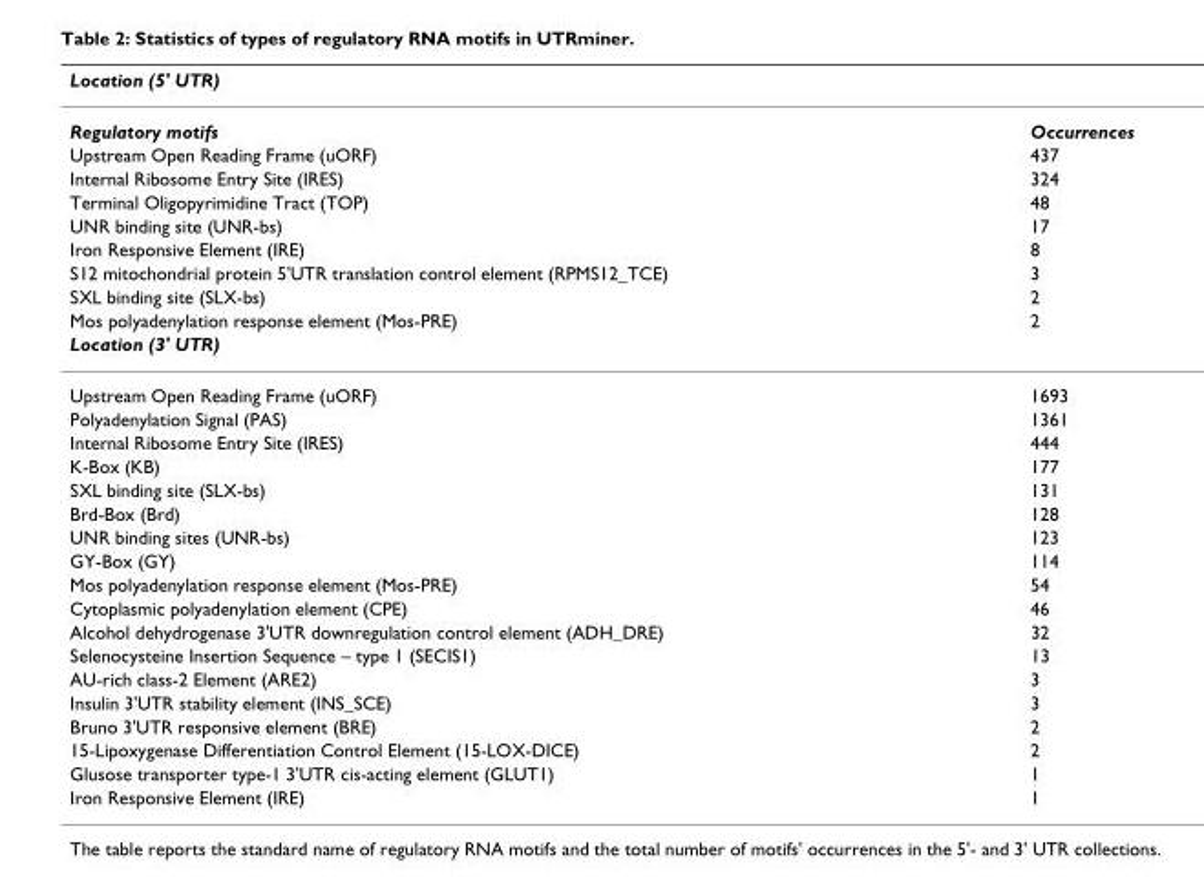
<table><thead><tr><td>Location (5&#x27; UTR)</td><td></td></tr></thead><tbody><tr><td>Regulatory motifs</td><td>Occurrences</td></tr><tr><td>Upstream Open Reading Frame (uORF)</td><td>437</td></tr><tr><td>Internal Ribosome Entry Site (IRES)</td><td>324</td></tr><tr><td>Terminal Oligopyrimidine Tract (TOP)</td><td>48</td></tr><tr><td>UNR binding site (UNR-bs)</td><td>17</td></tr><tr><td>Iron Responsive Element (IRE)</td><td>8</td></tr><tr><td>S12 mitochondrial protein 5&#x27;UTR translation control element (RPMS12_TCE)</td><td>3</td></tr><tr><td>SXL binding site (SLX-bs)</td><td>2</td></tr><tr><td>Mos polyadenylation response element (Mos-PRE)</td><td>2</td></tr><tr><td colspan="2">Location (3&#x27; UTR)</td></tr><tr><td>Upstream Open Reading Frame (uORF)</td><td>1693</td></tr><tr><td>Polyadenylation Signal (PAS)</td><td>1361</td></tr><tr><td>Internal Ribosome Entry Site (IRES)</td><td>444</td></tr><tr><td>K-Box (KB)</td><td>177</td></tr><tr><td>SXL binding site (SLX-bs)</td><td>131</td></tr><tr><td>Brd-Box (Brd)</td><td>128</td></tr><tr><td>UNR binding sites (UNR-bs)</td><td>123</td></tr><tr><td>GY-Box (GY)</td><td>114</td></tr><tr><td>Mos polyadenylation response element (Mos-PRE)</td><td>54</td></tr><tr><td>Cytoplasmic polyadenylation element (CPE)</td><td>46</td></tr><tr><td>Alcohol dehydrogenase 3&#x27;UTR downregulation control element (ADH_DRE)</td><td>32</td></tr><tr><td>Selenocysteine Insertion Sequence – type 1 (SECIS1)</td><td>13</td></tr><tr><td>AU-rich class-2 Element (ARE2)</td><td>3</td></tr><tr><td>Insulin 3&#x27;UTR stability element (INS_SCE)</td><td>3</td></tr><tr><td>Bruno 3&#x27;UTR responsive element (BRE)</td><td>2</td></tr><tr><td>15-Lipoxygenase Differentiation Control Element (15-LOX-DICE)</td><td>2</td></tr><tr><td>Glusose transporter type-1 3&#x27;UTR cis-acting element (GLUT1)</td><td>1</td></tr><tr><td>Iron Responsive Element (IRE)</td><td>1</td></tr></tbody></table>